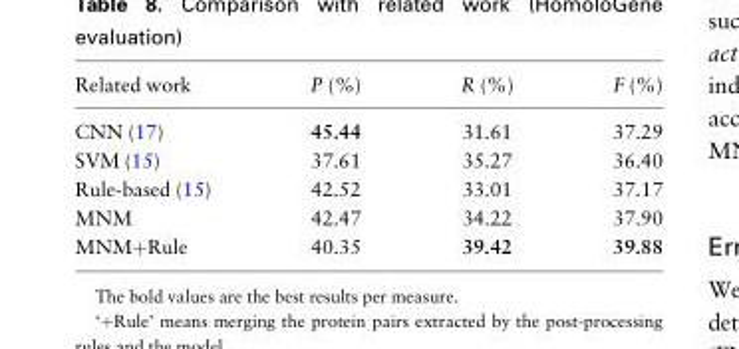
<table><thead><tr><td>Related work</td><td>P (%)</td><td>R (%)</td><td>F (%)</td></tr></thead><tbody><tr><td>CNN (17)</td><td>45.44</td><td>31.61</td><td>37.29</td></tr><tr><td>SVM (15)</td><td>37.61</td><td>35.27</td><td>36.40</td></tr><tr><td>Rule-based (15)</td><td>42.52</td><td>33.01</td><td>37.17</td></tr><tr><td>MNM</td><td>42.47</td><td>34.22</td><td>37.90</td></tr><tr><td>MNM+Rule</td><td>40.35</td><td>39.42</td><td>39.88</td></tr></tbody></table>